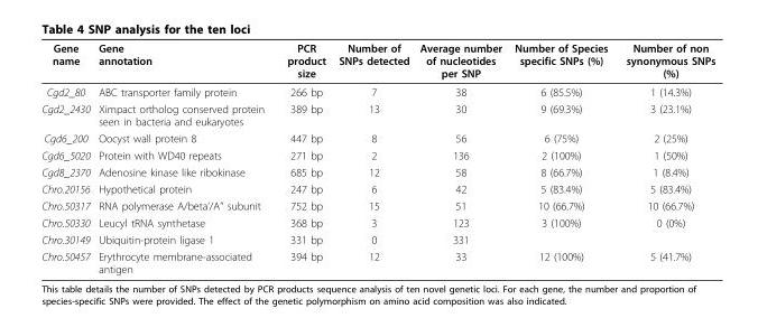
<table><thead><tr><td>Gene name</td><td>Gene annotation</td><td>PCR product size</td><td>Number of SNPs detected</td><td>Average number of nucleotides per SNP</td><td>Number of Species specific SNPs (%)</td><td>Number of non synonymous SNPs (%)</td></tr></thead><tbody><tr><td>Cgd2_80</td><td>ABC transporter family protein</td><td>266 bp</td><td>7</td><td>38</td><td>6 (85.5%)</td><td>1 (14.3%)</td></tr><tr><td>Cgd2_2430</td><td>Ximpact ortholog conserved protein seen in bacteria and eukaryotes</td><td>389 bp</td><td>13</td><td>30</td><td>9 (69.3%)</td><td>3 (23.1%)</td></tr><tr><td>Cgd6_200</td><td>Oocyst wall protein 8</td><td>447 bp</td><td>8</td><td>56</td><td>6 (75%)</td><td>2 (25%)</td></tr><tr><td>Cgd6_5020</td><td>Protein with WD40 repeats</td><td>271 bp</td><td>2</td><td>136</td><td>2 (100%)</td><td>1 (50%)</td></tr><tr><td>Cgd8_2370</td><td>Adenosine kinase like ribokinase</td><td>685 bp</td><td>12</td><td>58</td><td>8 (66.7%)</td><td>1 (8.4%)</td></tr><tr><td>Chro.20156</td><td>Hypothetical protein</td><td>247 bp</td><td>6</td><td>42</td><td>5 (83.4%)</td><td>5 (83.4%)</td></tr><tr><td>Chro.50317</td><td>RNA polymerase A/beta’/A’’ subunit</td><td>752 bp</td><td>15</td><td>51</td><td>10 (66.7%)</td><td>10 (66.7%)</td></tr><tr><td>Chro.50330</td><td>Leucyl tRNA synthetase</td><td>368 bp</td><td>3</td><td>123</td><td>3 (100%)</td><td>0 (0%)</td></tr><tr><td>Chro.30149</td><td>Ubiquitin-protein ligase 1</td><td>331 bp</td><td>0</td><td>331</td><td></td><td></td></tr><tr><td>Chro.50457</td><td>Erythrocyte membrane-associated antigen</td><td>394 bp</td><td>12</td><td>33</td><td>12 (100%)</td><td>5 (41.7%)</td></tr></tbody></table>